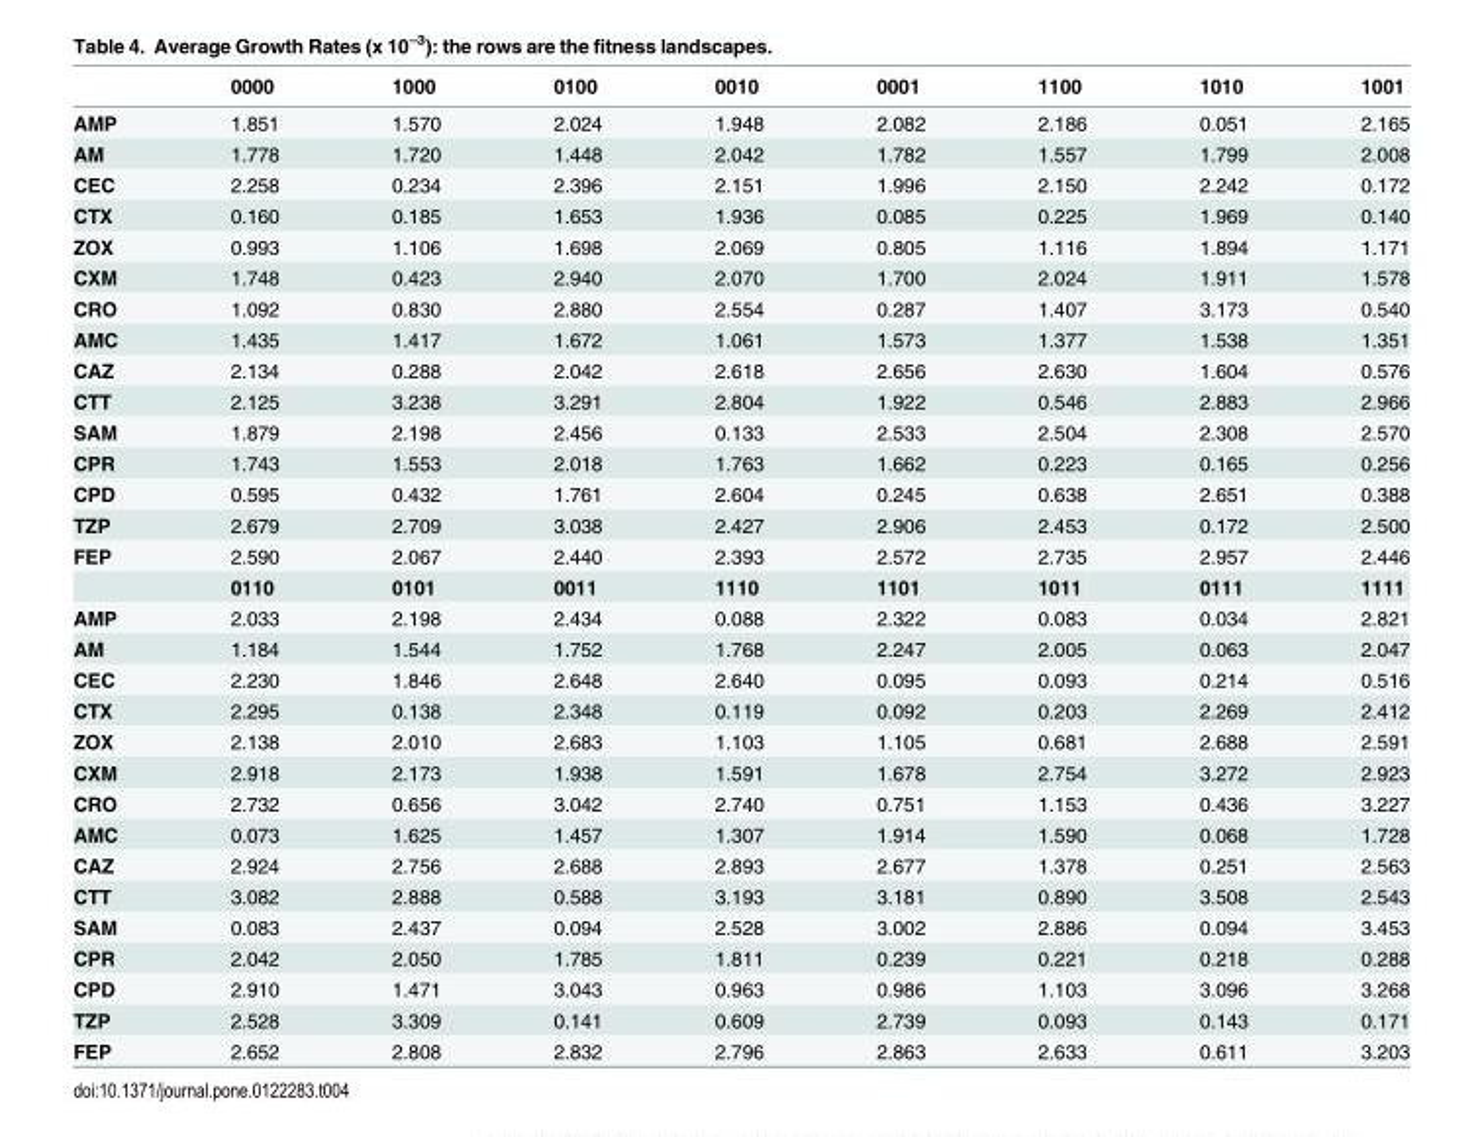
<table><thead><tr><td></td><td>0000</td><td>1000</td><td>0100</td><td>0010</td><td>0001</td><td>1100</td><td>1010</td><td>1001</td></tr></thead><tbody><tr><td>AMP</td><td>1.851</td><td>1.570</td><td>2.024</td><td>1.948</td><td>2.082</td><td>2.186</td><td>0.051</td><td>2.165</td></tr><tr><td>AM</td><td>1.778</td><td>1.720</td><td>1.448</td><td>2.042</td><td>1.782</td><td>1.557</td><td>1.799</td><td>2.008</td></tr><tr><td>CEC</td><td>2.258</td><td>0.234</td><td>2.396</td><td>2.151</td><td>1.996</td><td>2.150</td><td>2.242</td><td>0.172</td></tr><tr><td>CTX</td><td>0.160</td><td>0.185</td><td>1.653</td><td>1.936</td><td>0.085</td><td>0.225</td><td>1.969</td><td>0.140</td></tr><tr><td>ZOX</td><td>0.993</td><td>1.106</td><td>1.698</td><td>2.069</td><td>0.805</td><td>1.116</td><td>1.894</td><td>1.171</td></tr><tr><td>CXM</td><td>1.748</td><td>0.423</td><td>2.940</td><td>2.070</td><td>1.700</td><td>2.024</td><td>1.911</td><td>1.578</td></tr><tr><td>CRO</td><td>1.092</td><td>0.830</td><td>2.880</td><td>2.554</td><td>0.287</td><td>1.407</td><td>3.173</td><td>0.540</td></tr><tr><td>AMC</td><td>1.435</td><td>1.417</td><td>1.672</td><td>1.061</td><td>1.573</td><td>1.377</td><td>1.538</td><td>1.351</td></tr><tr><td>CAZ</td><td>2.134</td><td>0.288</td><td>2.042</td><td>2.618</td><td>2.656</td><td>2.630</td><td>1.604</td><td>0.576</td></tr><tr><td>CTT</td><td>2.125</td><td>3.238</td><td>3.291</td><td>2.804</td><td>1.922</td><td>0.546</td><td>2.883</td><td>2.966</td></tr><tr><td>SAM</td><td>1.879</td><td>2.198</td><td>2.456</td><td>0.133</td><td>2.533</td><td>2.504</td><td>2.308</td><td>2.570</td></tr><tr><td>CPR</td><td>1.743</td><td>1.553</td><td>2.018</td><td>1.763</td><td>1.662</td><td>0.223</td><td>0.165</td><td>0.256</td></tr><tr><td>CPD</td><td>0.595</td><td>0.432</td><td>1.761</td><td>2.604</td><td>0.245</td><td>0.638</td><td>2.651</td><td>0.388</td></tr><tr><td>TZP</td><td>2.679</td><td>2.709</td><td>3.038</td><td>2.427</td><td>2.906</td><td>2.453</td><td>0.172</td><td>2.500</td></tr><tr><td rowspan="2">FEP</td><td>2.590</td><td>2.067</td><td>2.440</td><td>2.393</td><td>2.572</td><td>2.735</td><td>2.957</td><td>2.446</td></tr><tr><td>0110</td><td>0101</td><td>0011</td><td>1110</td><td>1101</td><td>1011</td><td>0111</td><td>1111</td></tr><tr><td>AMP</td><td>2.033</td><td>2.198</td><td>2.434</td><td>0.088</td><td>2.322</td><td>0.083</td><td>0.034</td><td>2.821</td></tr><tr><td>AM</td><td>1.184</td><td>1.544</td><td>1.752</td><td>1.768</td><td>2.247</td><td>2.005</td><td>0.063</td><td>2.047</td></tr><tr><td>CEC</td><td>2.230</td><td>1.846</td><td>2.648</td><td>2.640</td><td>0.095</td><td>0.093</td><td>0.214</td><td>0.516</td></tr><tr><td>CTX</td><td>2.295</td><td>0.138</td><td>2.348</td><td>0.119</td><td>0.092</td><td>0.203</td><td>2.269</td><td>2.412</td></tr><tr><td>ZOX</td><td>2.138</td><td>2.010</td><td>2.683</td><td>1.103</td><td>1.105</td><td>0.681</td><td>2.688</td><td>2.591</td></tr><tr><td>CXM</td><td>2.918</td><td>2.173</td><td>1.938</td><td>1.591</td><td>1.678</td><td>2.754</td><td>3.272</td><td>2.923</td></tr><tr><td>CRO</td><td>2.732</td><td>0.656</td><td>3.042</td><td>2.740</td><td>0.751</td><td>1.153</td><td>0.436</td><td>3.227</td></tr><tr><td>AMC</td><td>0.073</td><td>1.625</td><td>1.457</td><td>1.307</td><td>1.914</td><td>1.590</td><td>0.068</td><td>1.728</td></tr><tr><td>CAZ</td><td>2.924</td><td>2.756</td><td>2.688</td><td>2.893</td><td>2.677</td><td>1.378</td><td>0.251</td><td>2.563</td></tr><tr><td>CTT</td><td>3.082</td><td>2.888</td><td>0.588</td><td>3.193</td><td>3.181</td><td>0.890</td><td>3.508</td><td>2.543</td></tr><tr><td>SAM</td><td>0.083</td><td>2.437</td><td>0.094</td><td>2.528</td><td>3.002</td><td>2.886</td><td>0.094</td><td>3.453</td></tr><tr><td>CPR</td><td>2.042</td><td>2.050</td><td>1.785</td><td>1.811</td><td>0.239</td><td>0.221</td><td>0.218</td><td>0.288</td></tr><tr><td>CPD</td><td>2.910</td><td>1.471</td><td>3.043</td><td>0.963</td><td>0.986</td><td>1.103</td><td>3.096</td><td>3.268</td></tr><tr><td>TZP</td><td>2.528</td><td>3.309</td><td>0.141</td><td>0.609</td><td>2.739</td><td>0.093</td><td>0.143</td><td>0.171</td></tr><tr><td>FEP</td><td>2.652</td><td>2.808</td><td>2.832</td><td>2.796</td><td>2.863</td><td>2.633</td><td>0.611</td><td>3.203</td></tr></tbody></table>